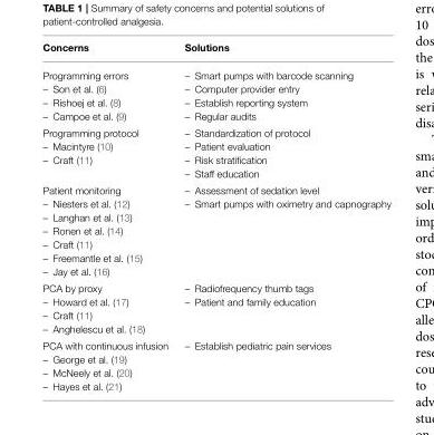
<table><thead><tr><td>Concerns</td><td>Solutions</td></tr></thead><tbody><tr><td>Programming errors – Son et al. (6) – Rishoej et al. (8) – Campoe et al. (9)</td><td>– Smart pumps with barcode scanning – Computer provider entry – Establish reporting system – Regular audits</td></tr><tr><td>Programming protocol – Macintyre (10) – Craft (11)</td><td>– Standardization of protocol – Patient evaluation – Risk stratification – Staff education</td></tr><tr><td>Patient monitoring – Niesters et al. (12) – Langhan et al. (13) – Ronen et al. (14) – Craft (11) – Freemantle et al. (15) – Jay et al. (16)</td><td>– Assessment of sedation level – Smart pumps with oximetry and capnography</td></tr><tr><td>PCA by proxy – Howard et al. (17) – Craft (11) – Anghelescu et al. (18)</td><td>– Radiofrequency thumb tags – Patient and family education</td></tr><tr><td>PCA with continuous infusion – George et al. (19) – McNeely et al. (20) – Hayes et al. (21)</td><td>– Establish pediatric pain services</td></tr></tbody></table>